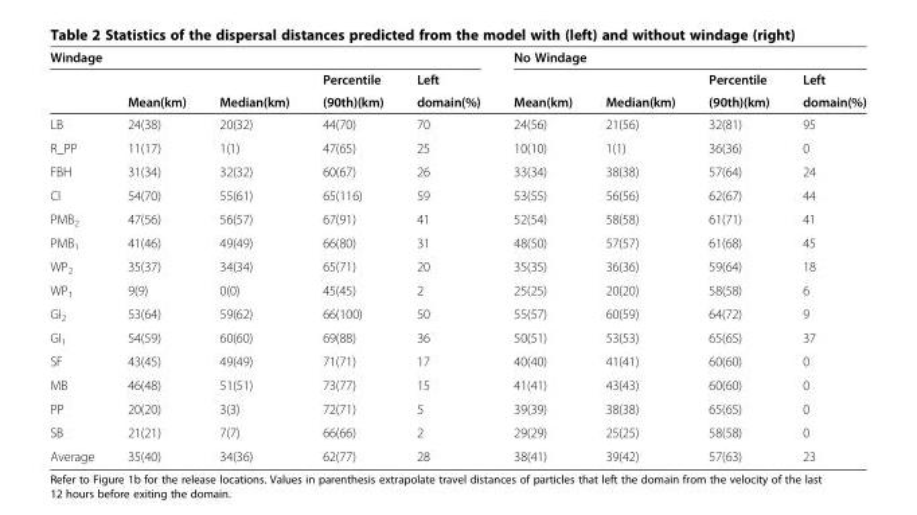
<table><thead><tr><td colspan="5">Windage</td><td colspan="4">No Windage</td></tr><tr><td rowspan="2"></td><td rowspan="2">Mean(km)</td><td rowspan="2">Median(km)</td><td rowspan="2">Percentile (90th)(km)</td><td rowspan="2">Left domain(%)</td><td rowspan="2">Mean(km)</td><td rowspan="2">Median(km)</td><td rowspan="2">Percentile (90th)(km)</td><td rowspan="2">Left domain(%)</td></tr><tr></tr></thead><tbody><tr><td>LB</td><td>24(38)</td><td>20(32)</td><td>44(70)</td><td>70</td><td>24(56)</td><td>21(56)</td><td>32(81)</td><td>95</td></tr><tr><td>R_PP</td><td>11(17)</td><td>1(1)</td><td>47(65)</td><td>25</td><td>10(10)</td><td>1(1)</td><td>36(36)</td><td>0</td></tr><tr><td>FBH</td><td>31(34)</td><td>32(32)</td><td>60(67)</td><td>26</td><td>33(34)</td><td>38(38)</td><td>57(64)</td><td>24</td></tr><tr><td>CI</td><td>54(70)</td><td>55(61)</td><td>65(116)</td><td>59</td><td>53(55)</td><td>56(56)</td><td>62(67)</td><td>44</td></tr><tr><td>PMB<sub>2</sub></td><td>47(56)</td><td>56(57)</td><td>67(91)</td><td>41</td><td>52(54)</td><td>58(58)</td><td>61(71)</td><td>41</td></tr><tr><td>PMB<sub>1</sub></td><td>41(46)</td><td>49(49)</td><td>66(80)</td><td>31</td><td>48(50)</td><td>57(57)</td><td>61(68)</td><td>45</td></tr><tr><td>WP<sub>2</sub></td><td>35(37)</td><td>34(34)</td><td>65(71)</td><td>20</td><td>35(35)</td><td>36(36)</td><td>59(64)</td><td>18</td></tr><tr><td>WP<sub>1</sub></td><td>9(9)</td><td>0(0)</td><td>45(45)</td><td>2</td><td>25(25)</td><td>20(20)</td><td>58(58)</td><td>6</td></tr><tr><td>GI<sub>2</sub></td><td>53(64)</td><td>59(62)</td><td>66(100)</td><td>50</td><td>55(57)</td><td>60(59)</td><td>64(72)</td><td>9</td></tr><tr><td>GI<sub>1</sub></td><td>54(59)</td><td>60(60)</td><td>69(88)</td><td>36</td><td>50(51)</td><td>53(53)</td><td>65(65)</td><td>37</td></tr><tr><td>SF</td><td>43(45)</td><td>49(49)</td><td>71(71)</td><td>17</td><td>40(40)</td><td>41(41)</td><td>60(60)</td><td>0</td></tr><tr><td>MB</td><td>46(48)</td><td>51(51)</td><td>73(77)</td><td>15</td><td>41(41)</td><td>43(43)</td><td>60(60)</td><td>0</td></tr><tr><td>PP</td><td>20(20)</td><td>3(3)</td><td>72(71)</td><td>5</td><td>39(39)</td><td>38(38)</td><td>65(65)</td><td>0</td></tr><tr><td>SB</td><td>21(21)</td><td>7(7)</td><td>66(66)</td><td>2</td><td>29(29)</td><td>25(25)</td><td>58(58)</td><td>0</td></tr><tr><td>Average</td><td>35(40)</td><td>34(36)</td><td>62(77)</td><td>28</td><td>38(41)</td><td>39(42)</td><td>57(63)</td><td>23</td></tr></tbody></table>